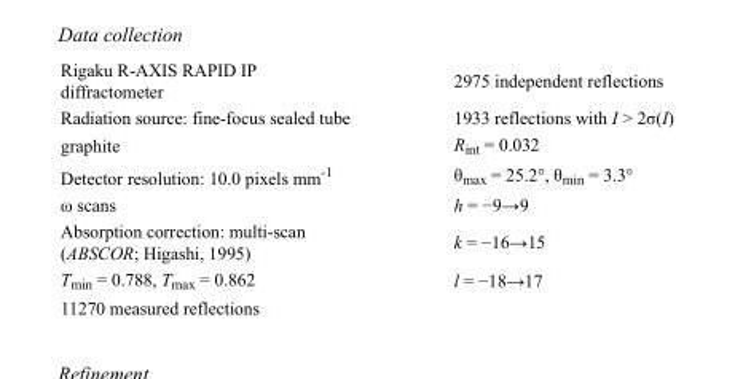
<table><tbody><tr><td>Rigaku R-AXIS RAPID IP diffractometer</td><td>2975 independent reflections</td></tr><tr><td>Radiation source: fine-focus sealed tube</td><td>1933 reflections with I &gt; 2σ(I)</td></tr><tr><td>graphite</td><td>R<sub>int</sub> = 0.032</td></tr><tr><td>Detector resolution: 10.0 pixels mm<sup>-1</sup></td><td>θ<sub>max</sub> = 25.2°, θ<sub>min</sub> = 3.3°</td></tr><tr><td>ω scans</td><td>h = −9→9</td></tr><tr><td>Absorption correction: multi-scan (ABSCOR; Higashi, 1995)</td><td>k = −16→15</td></tr><tr><td>T<sub>min</sub> = 0.788, T<sub>max</sub> = 0.862</td><td>l = −18→17</td></tr><tr><td>11270 measured reflections</td><td></td></tr></tbody></table>